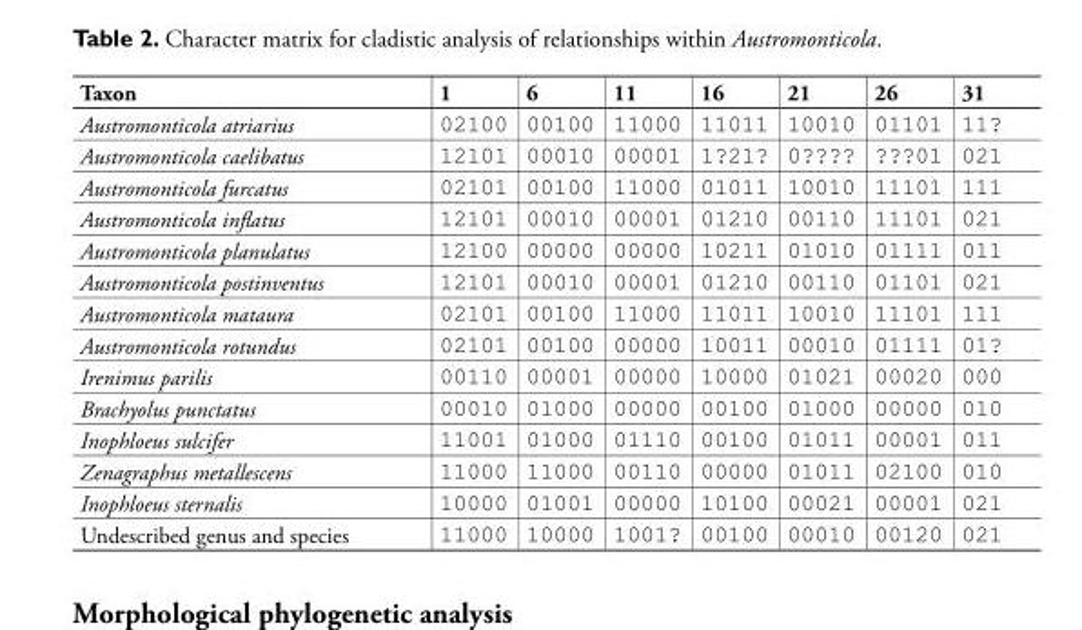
<table><thead><tr><td>Taxon</td><td>1</td><td>6</td><td>11</td><td>16</td><td>21</td><td>26</td><td>31</td></tr></thead><tbody><tr><td>Austromonticola atriarius</td><td>02100</td><td>00100</td><td>11000</td><td>11011</td><td>10010</td><td>01101</td><td>11?</td></tr><tr><td>Austromonticola caelibatus</td><td>12101</td><td>00010</td><td>00001</td><td>1?21?</td><td>0????</td><td>???01</td><td>021</td></tr><tr><td>Austromonticola furcatus</td><td>02101</td><td>00100</td><td>11000</td><td>01011</td><td>10010</td><td>11101</td><td>111</td></tr><tr><td>Austromonticola inflatus</td><td>12101</td><td>00010</td><td>00001</td><td>01210</td><td>00110</td><td>11101</td><td>021</td></tr><tr><td>Austromonticola planulatus</td><td>12100</td><td>00000</td><td>00000</td><td>10211</td><td>01010</td><td>01111</td><td>011</td></tr><tr><td>Austromonticola postinventus</td><td>12101</td><td>00010</td><td>00001</td><td>01210</td><td>00110</td><td>01101</td><td>021</td></tr><tr><td>Austromonticola mataura</td><td>02101</td><td>00100</td><td>11000</td><td>11011</td><td>10010</td><td>11101</td><td>111</td></tr><tr><td>Austromonticola rotundus</td><td>02101</td><td>00100</td><td>00000</td><td>10011</td><td>00010</td><td>01111</td><td>01?</td></tr><tr><td>Irenimus parilis</td><td>00110</td><td>00001</td><td>00000</td><td>10000</td><td>01021</td><td>00020</td><td>000</td></tr><tr><td>Brachyolus punctatus</td><td>00010</td><td>01000</td><td>00000</td><td>00100</td><td>01000</td><td>00000</td><td>010</td></tr><tr><td>Inophloeus sulcifer</td><td>11001</td><td>01000</td><td>01110</td><td>00100</td><td>01011</td><td>00001</td><td>011</td></tr><tr><td>Zenagraphus metallescens</td><td>11000</td><td>11000</td><td>00110</td><td>00000</td><td>01011</td><td>02100</td><td>010</td></tr><tr><td>Inophloeus sternalis</td><td>10000</td><td>01001</td><td>00000</td><td>10100</td><td>00021</td><td>00001</td><td>021</td></tr><tr><td>Undescribed genus and species</td><td>11000</td><td>10000</td><td>1001?</td><td>00100</td><td>00010</td><td>00120</td><td>021</td></tr></tbody></table>